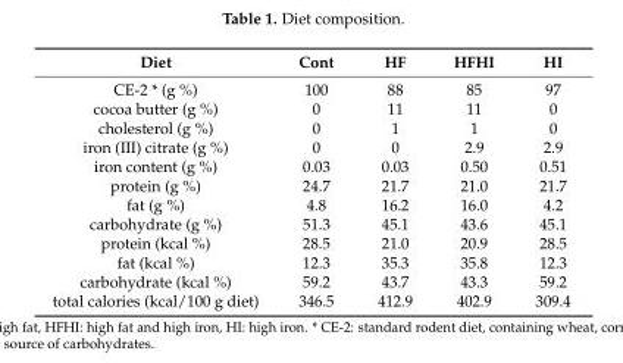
<table><thead><tr><td>Diet</td><td>Cont</td><td>HF</td><td>HFHI</td><td>HI</td></tr></thead><tbody><tr><td>CE-2 * (g %)</td><td>100</td><td>88</td><td>85</td><td>97</td></tr><tr><td>cocoa butter (g %)</td><td>0</td><td>11</td><td>11</td><td>0</td></tr><tr><td>cholesterol (g %)</td><td>0</td><td>1</td><td>1</td><td>0</td></tr><tr><td>iron (III) citrate (g %)</td><td>0</td><td>0</td><td>2.9</td><td>2.9</td></tr><tr><td>iron content (g %)</td><td>0.03</td><td>0.03</td><td>0.50</td><td>0.51</td></tr><tr><td>protein (g %)</td><td>24.7</td><td>21.7</td><td>21.0</td><td>21.7</td></tr><tr><td>fat (g %)</td><td>4.8</td><td>16.2</td><td>16.0</td><td>4.2</td></tr><tr><td>carbohydrate (g %)</td><td>51.3</td><td>45.1</td><td>43.6</td><td>45.1</td></tr><tr><td>protein (kcal %)</td><td>28.5</td><td>21.0</td><td>20.9</td><td>28.5</td></tr><tr><td>fat (kcal %)</td><td>12.3</td><td>35.3</td><td>35.8</td><td>12.3</td></tr><tr><td>carbohydrate (kcal %)</td><td>59.2</td><td>43.7</td><td>43.3</td><td>59.2</td></tr><tr><td>total calories (kcal/100 g diet)</td><td>346.5</td><td>412.9</td><td>402.9</td><td>309.4</td></tr></tbody></table>